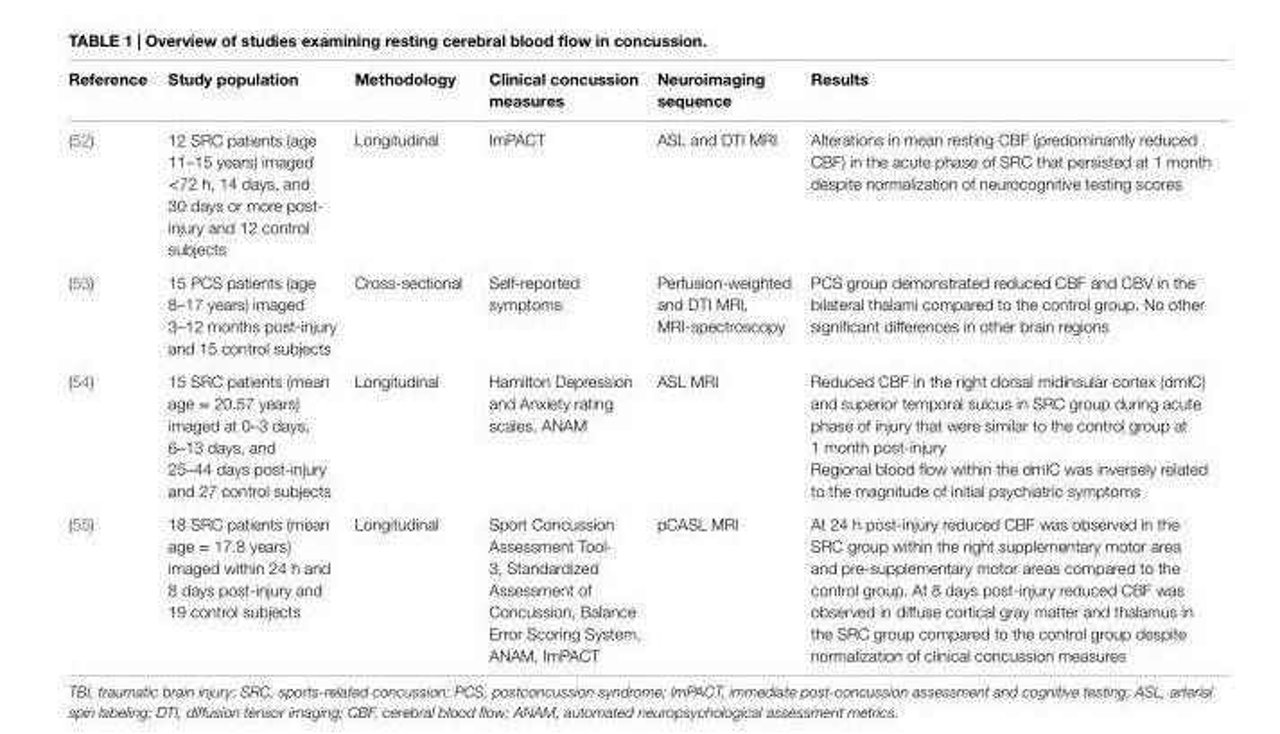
<table><thead><tr><td>reference</td><td>study population</td><td>Methodology</td><td>Clinical concussion measures</td><td>neuroimaging sequence</td><td>results</td></tr></thead><tbody><tr><td>(52)</td><td>12 SRC patients (age 11–15 years) imaged &lt;72 h, 14 days, and 30 days or more post- injury and 12 control subjects</td><td>Longitudinal</td><td>ImPACT</td><td>ASL and DTI MRI</td><td>Alterations in mean resting CBF (predominantly reduced CBF) in the acute phase of SRC that persisted at 1 month despite normalization of neurocognitive testing scores</td></tr><tr><td>(53)</td><td>15 PCS patients (age 8–17 years) imaged 3–12 months post-injury and 15 control subjects</td><td>Cross-sectional</td><td>Self-reported symptoms</td><td>Perfusion-weighted and DTI MRI, MRI-spectroscopy</td><td>PCS group demonstrated reduced CBF and CBV in the bilateral thalami compared to the control group. No other significant differences in other brain regions</td></tr><tr><td rowspan="2">(54)</td><td rowspan="2">15 SRC patients (mean age = 20.57 years) imaged at 0–3 days, 6–13 days, and 25–44 days post-injury and 27 control subjects</td><td rowspan="2">Longitudinal</td><td rowspan="2">Hamilton Depression and Anxiety rating scales, ANAM</td><td rowspan="2">ASL MRI</td><td>Reduced CBF in the right dorsal midinsular cortex (dmIC) and superior temporal sulcus in SRC group during acute phase of injury that were similar to the control group at 1 month post-injury</td></tr><tr><td>Regional blood flow within the dmIC was inversely related to the magnitude of initial psychiatric symptoms</td></tr><tr><td>(55)</td><td>18 SRC patients (mean age = 17.8 years) imaged within 24 h and 8 days post-injury and 19 control subjects</td><td>Longitudinal</td><td>Sport Concussion Assessment Tool- 3, Standardized Assessment of Concussion, Balance Error Scoring System, ANAM, ImPACT</td><td>pCASL MRI</td><td>At 24 h post-injury reduced CBF was observed in the SRC group within the right supplementary motor area and pre-supplementary motor areas compared to the control group. At 8 days post-injury reduced CBF was observed in diffuse cortical gray matter and thalamus in the SRC group compared to the control group despite normalization of clinical concussion measures</td></tr></tbody></table>